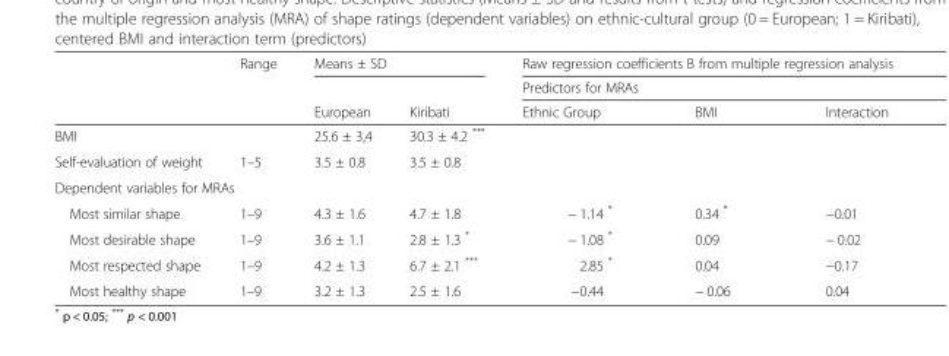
<table><thead><tr><td rowspan="3"></td><td rowspan="3">Range</td><td colspan="2">Means ± SD</td><td rowspan="2" colspan="3">Raw regression coefficients B from multiple regression analysis Predictors for MRAs</td></tr><tr><td rowspan="2">European</td><td rowspan="2">Kiribati</td></tr><tr><td>Ethnic Group</td><td>BMI</td><td>Interaction</td></tr></thead><tbody><tr><td>BMI</td><td></td><td>25.6 ± 3,4</td><td>30.3 ± 4.2 ***</td><td></td><td></td><td></td></tr><tr><td>Self-evaluation of weight</td><td>1–5</td><td>3.5 ± 0.8</td><td>3.5 ± 0.8</td><td></td><td></td><td></td></tr><tr><td colspan="7">Dependent variables for MRAs</td></tr><tr><td>Most similar shape</td><td>1–9</td><td>4.3 ± 1.6</td><td>4.7 ± 1.8</td><td>− 1.14 *</td><td>0.34 *</td><td>−0.01</td></tr><tr><td>Most desirable shape</td><td>1–9</td><td>3.6 ± 1.1</td><td>2.8 ± 1.3 *</td><td>− 1.08 *</td><td>0.09</td><td>− 0.02</td></tr><tr><td>Most respected shape</td><td>1–9</td><td>4.2 ± 1.3</td><td>6.7 ± 2.1 ***</td><td>2.85 *</td><td>0.04</td><td>−0.17</td></tr><tr><td>Most healthy shape</td><td>1–9</td><td>3.2 ± 1.3</td><td>2.5 ± 1.6</td><td>−0.44</td><td>− 0.06</td><td>0.04</td></tr></tbody></table>